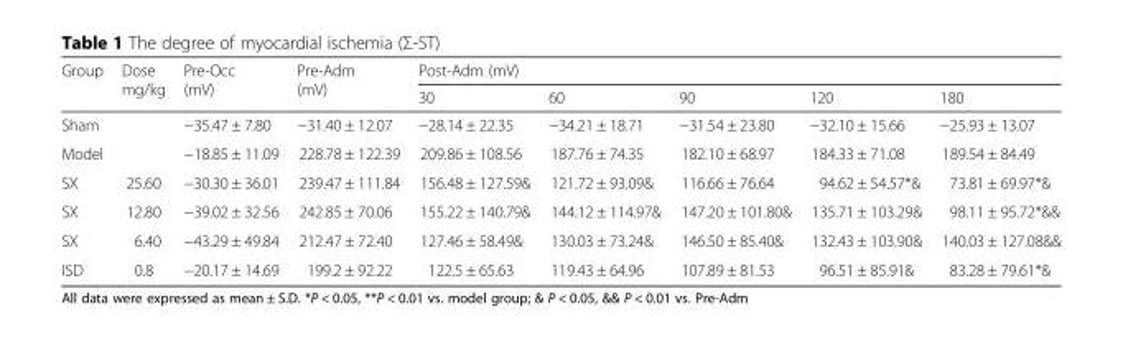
<table><thead><tr><td rowspan="2">Group</td><td rowspan="2">Dose mg/kg</td><td rowspan="2">Pre-Occ (mV)</td><td rowspan="2">Pre-Adm (mV)</td><td colspan="5">Post-Adm (mV)</td></tr><tr><td>30</td><td>60</td><td>90</td><td>120</td><td>180</td></tr></thead><tbody><tr><td>Sham</td><td></td><td>−35.47 ± 7.80</td><td>−31.40 ± 12.07</td><td>−28.14 ± 22.35</td><td>−34.21 ± 18.71</td><td>−31.54 ± 23.80</td><td>−32.10 ± 15.66</td><td>−25.93 ± 13.07</td></tr><tr><td>Model</td><td></td><td>−18.85 ± 11.09</td><td>228.78 ± 122.39</td><td>209.86 ± 108.56</td><td>187.76 ± 74.35</td><td>182.10 ± 68.97</td><td>184.33 ± 71.08</td><td>189.54 ± 84.49</td></tr><tr><td>SX</td><td>25.60</td><td>−30.30 ± 36.01</td><td>239.47 ± 111.84</td><td>156.48 ± 127.59&amp;</td><td>121.72 ± 93.09&amp;</td><td>116.66 ± 76.64</td><td>94.62 ± 54.57*&amp;</td><td>73.81 ± 69.97*&amp;</td></tr><tr><td>SX</td><td>12.80</td><td>−39.02 ± 32.56</td><td>242.85 ± 70.06</td><td>155.22 ± 140.79&amp;</td><td>144.12 ± 114.97&amp;</td><td>147.20 ± 101.80&amp;</td><td>135.71 ± 103.29&amp;</td><td>98.11 ± 95.72*&amp;&amp;</td></tr><tr><td>SX</td><td>6.40</td><td>−43.29 ± 49.84</td><td>212.47 ± 72.40</td><td>127.46 ± 58.49&amp;</td><td>130.03 ± 73.24&amp;</td><td>146.50 ± 85.40&amp;</td><td>132.43 ± 103.90&amp;</td><td>140.03 ± 127.08&amp;&amp;</td></tr><tr><td>ISD</td><td>0.8</td><td>−20.17 ± 14.69</td><td>199.2 ± 92.22</td><td>122.5 ± 65.63</td><td>119.43 ± 64.96</td><td>107.89 ± 81.53</td><td>96.51 ± 85.91&amp;</td><td>83.28 ± 79.61*&amp;</td></tr></tbody></table>